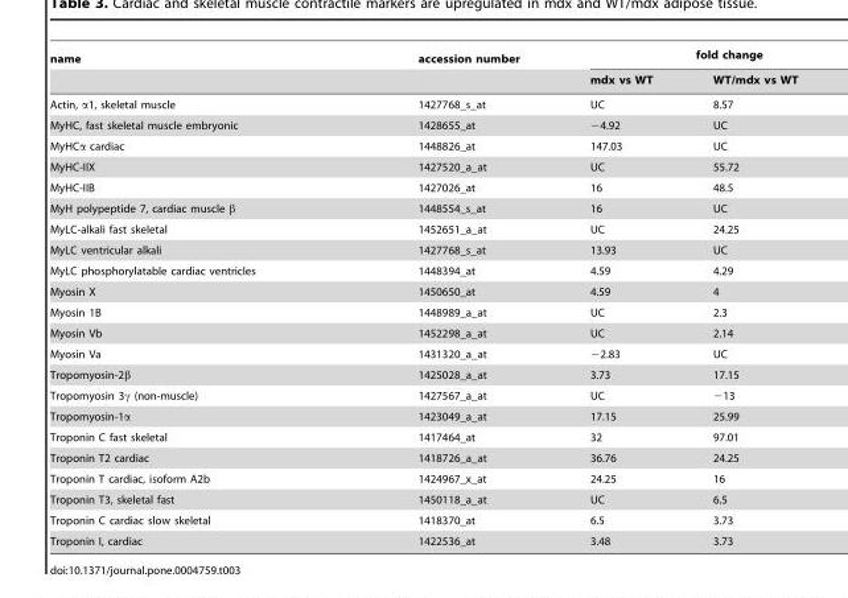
<table><thead><tr><td rowspan="2">name</td><td rowspan="2">accession number</td><td colspan="2">fold change</td></tr><tr><td>mdx vs WT</td><td>WT/mdx vs WT</td></tr></thead><tbody><tr><td>Actin, α1, skeletal muscle</td><td>1427768_s_at</td><td>UC</td><td>8.57</td></tr><tr><td>MyHC, fast skeletal muscle embryonic</td><td>1428655_at</td><td>−4.92</td><td>UC</td></tr><tr><td>MyHCα cardiac</td><td>1448826_at</td><td>147.03</td><td>UC</td></tr><tr><td>MyHC-IIX</td><td>1427520_a_at</td><td>UC</td><td>55.72</td></tr><tr><td>MyHC-IIB</td><td>1427026_at</td><td>16</td><td>48.5</td></tr><tr><td>MyH polypeptide 7, cardiac muscle β</td><td>1448554_s_at</td><td>16</td><td>UC</td></tr><tr><td>MyLC-alkali fast skeletal</td><td>1452651_a_at</td><td>UC</td><td>24.25</td></tr><tr><td>MyLC ventricular alkali</td><td>1427768_s_at</td><td>13.93</td><td>UC</td></tr><tr><td>MyLC phosphorylatable cardiac ventricles</td><td>1448394_at</td><td>4.59</td><td>4.29</td></tr><tr><td>Myosin X</td><td>1450650_at</td><td>4.59</td><td>4</td></tr><tr><td>Myosin 1B</td><td>1448989_a_at</td><td>UC</td><td>2.3</td></tr><tr><td>Myosin Vb</td><td>1452298_a_at</td><td>UC</td><td>2.14</td></tr><tr><td>Myosin Va</td><td>1431320_a_at</td><td>−2.83</td><td>UC</td></tr><tr><td>Tropomyosin-2β</td><td>1425028_a_at</td><td>3.73</td><td>17.15</td></tr><tr><td>Tropomyosin 3γ (non-muscle)</td><td>1427567_a_at</td><td>UC</td><td>−13</td></tr><tr><td>Tropomyosin-1α</td><td>1423049_a_at</td><td>17.15</td><td>25.99</td></tr><tr><td>Troponin C fast skeletal</td><td>1417464_at</td><td>32</td><td>97.01</td></tr><tr><td>Troponin T2 cardiac</td><td>1418726_a_at</td><td>36.76</td><td>24.25</td></tr><tr><td>Troponin T cardiac, isoform A2b</td><td>1424967_x_at</td><td>24.25</td><td>16</td></tr><tr><td>Troponin T3, skeletal fast</td><td>1450118_a_at</td><td>UC</td><td>6.5</td></tr><tr><td>Troponin C cardiac slow skeletal</td><td>1418370_at</td><td>6.5</td><td>3.73</td></tr><tr><td>Troponin I, cardiac</td><td>1422536_at</td><td>3.48</td><td>3.73</td></tr></tbody></table>